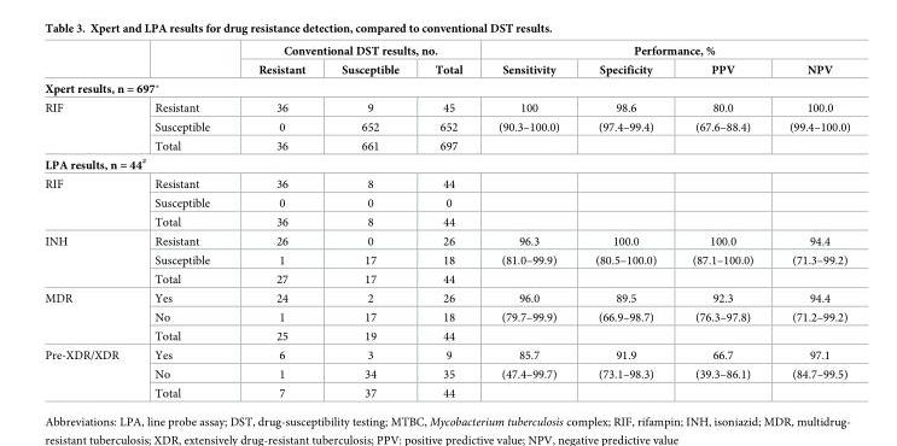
<table><thead><tr><td rowspan="2"></td><td rowspan="2"></td><td colspan="3">Conventional DST results, no.</td><td colspan="4">Performance, %</td></tr><tr><td>Resistant</td><td>Susceptible</td><td>Total</td><td>Sensitivity</td><td>Specificity</td><td>PPV</td><td>NPV</td></tr></thead><tbody><tr><td colspan="9">Xpert results, n = 697*</td></tr><tr><td rowspan="3">RIF</td><td>Resistant</td><td>36</td><td>9</td><td>45</td><td>100</td><td>98.6</td><td>80.0</td><td>100.0</td></tr><tr><td>Susceptible</td><td>0</td><td>652</td><td>652</td><td>(90.3–100.0)</td><td>(97.4–99.4)</td><td>(67.6–88.4)</td><td>(99.4–100.0)</td></tr><tr><td>Total</td><td>36</td><td>661</td><td>697</td><td></td><td></td><td></td><td></td></tr><tr><td colspan="9">LPA results, n = 44<sup>#</sup></td></tr><tr><td rowspan="3">RIF</td><td>Resistant</td><td>36</td><td>8</td><td>44</td><td></td><td></td><td></td><td></td></tr><tr><td>Susceptible</td><td>0</td><td>0</td><td>0</td><td></td><td></td><td></td><td></td></tr><tr><td>Total</td><td>36</td><td>8</td><td>44</td><td></td><td></td><td></td><td></td></tr><tr><td rowspan="3">INH</td><td>Resistant</td><td>26</td><td>0</td><td>26</td><td>96.3</td><td>100.0</td><td>100.0</td><td>94.4</td></tr><tr><td>Susceptible</td><td>1</td><td>17</td><td>18</td><td>(81.0–99.9)</td><td>(80.5–100.0)</td><td>(87.1–100.0)</td><td>(71.3–99.2)</td></tr><tr><td>Total</td><td>27</td><td>17</td><td>44</td><td></td><td></td><td></td><td></td></tr><tr><td rowspan="3">MDR</td><td>Yes</td><td>24</td><td>2</td><td>26</td><td>96.0</td><td>89.5</td><td>92.3</td><td>94.4</td></tr><tr><td>No</td><td>1</td><td>17</td><td>18</td><td>(79.7–99.9)</td><td>(66.9–98.7)</td><td>(76.3–97.8)</td><td>(71.2–99.2)</td></tr><tr><td>Total</td><td>25</td><td>19</td><td>44</td><td></td><td></td><td></td><td></td></tr><tr><td rowspan="3">Pre-XDR/XDR</td><td>Yes</td><td>6</td><td>3</td><td>9</td><td>85.7</td><td>91.9</td><td>66.7</td><td>97.1</td></tr><tr><td>No</td><td>1</td><td>34</td><td>35</td><td>(47.4–99.7)</td><td>(73.1–98.3)</td><td>(39.3–86.1)</td><td>(84.7–99.5)</td></tr><tr><td>Total</td><td>7</td><td>37</td><td>44</td><td></td><td></td><td></td><td></td></tr></tbody></table>